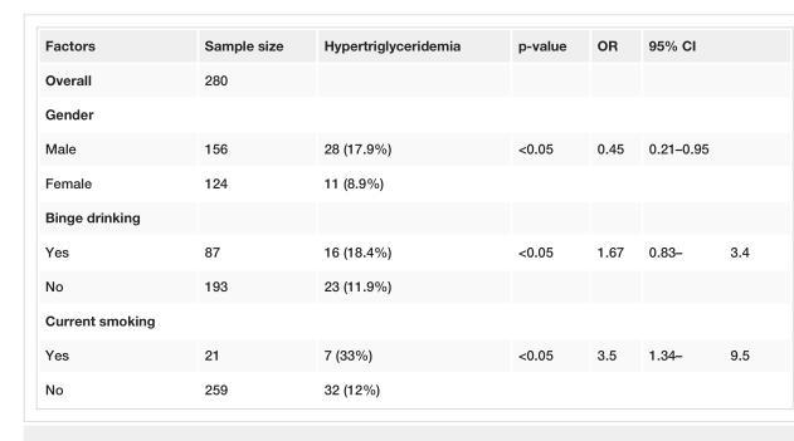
<table><tbody><tr><td>Factors</td><td>Sample size</td><td>Hypertriglyceridemia</td><td>p-value</td><td>OR</td><td>95% CI</td></tr><tr><td>Overall</td><td>280</td><td></td><td></td><td></td><td></td></tr><tr><td colspan="6">Gender</td></tr><tr><td>Male</td><td>156</td><td>28 (17.9%)</td><td>&lt;0.05</td><td>0.45</td><td>0.21–0.95</td></tr><tr><td>Female</td><td>124</td><td>11 (8.9%)</td><td></td><td></td><td></td></tr><tr><td colspan="6">Binge drinking</td></tr><tr><td>Yes</td><td>87</td><td>16 (18.4%)</td><td>&lt;0.05</td><td>1.67</td><td>0.83–3.4</td></tr><tr><td>No</td><td>193</td><td>23 (11.9%)</td><td></td><td></td><td></td></tr><tr><td colspan="6">Current smoking</td></tr><tr><td>Yes</td><td>21</td><td>7 (33%)</td><td>&lt;0.05</td><td>3.5</td><td>1.34–9.5</td></tr><tr><td>No</td><td>259</td><td>32 (12%)</td><td></td><td></td><td></td></tr></tbody></table>